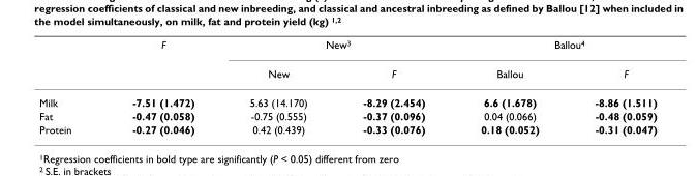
<table><thead><tr><td rowspan="2"></td><td rowspan="2">F</td><td colspan="2">New<sup>3</sup></td><td colspan="2">Ballou<sup>4</sup></td></tr><tr><td>New</td><td>F</td><td>Ballou</td><td>F</td></tr></thead><tbody><tr><td>Milk</td><td>-7.51 (1.472)</td><td>5.63 (14.170)</td><td>-8.29 (2.454)</td><td>6.6 (1.678)</td><td>-8.86 (1.511)</td></tr><tr><td>Fat</td><td>-0.47 (0.058)</td><td>-0.75 (0.555)</td><td>-0.37 (0.096)</td><td>0.04 (0.066)</td><td>-0.48 (0.059)</td></tr><tr><td>Protein</td><td>-0.27 (0.046)</td><td>0.42 (0.439)</td><td>-0.33 (0.076)</td><td>0.18 (0.052)</td><td>-0.31 (0.047)</td></tr></tbody></table>